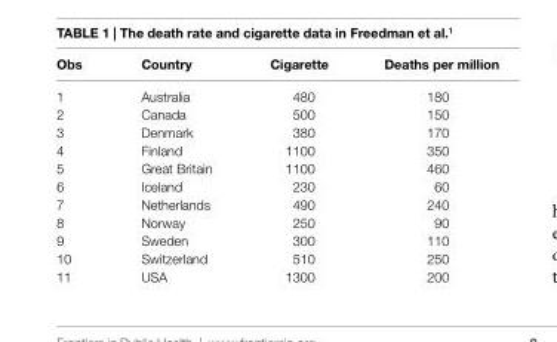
<table><thead><tr><td>Obs</td><td>Country</td><td>Cigarette</td><td>Deaths per million</td></tr></thead><tbody><tr><td>1</td><td>Australia</td><td>480</td><td>180</td></tr><tr><td>2</td><td>Canada</td><td>500</td><td>150</td></tr><tr><td>3</td><td>Denmark</td><td>380</td><td>170</td></tr><tr><td>4</td><td>Finland</td><td>1100</td><td>350</td></tr><tr><td>5</td><td>Great Britain</td><td>1100</td><td>460</td></tr><tr><td>6</td><td>Iceland</td><td>230</td><td>60</td></tr><tr><td>7</td><td>Netherlands</td><td>490</td><td>240</td></tr><tr><td>8</td><td>Norway</td><td>250</td><td>90</td></tr><tr><td>9</td><td>Sweden</td><td>300</td><td>110</td></tr><tr><td>10</td><td>Switzerland</td><td>510</td><td>250</td></tr><tr><td>11</td><td>USA</td><td>1300</td><td>200</td></tr></tbody></table>